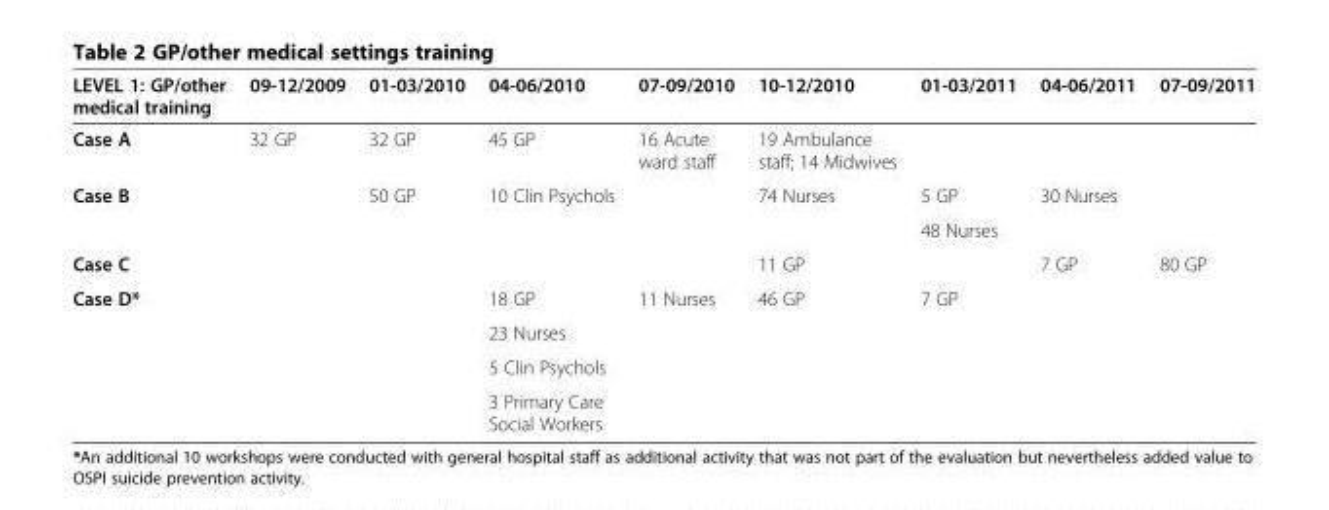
<table><thead><tr><td>LEVEL 1: GP/other medical training</td><td>09-12/2009</td><td>01-03/2010</td><td>04-06/2010</td><td>07-09/2010</td><td>10-12/2010</td><td>01-03/2011</td><td>04-06/2011</td><td>07-09/2011</td></tr></thead><tbody><tr><td>Case A</td><td>32 GP</td><td>32 GP</td><td>45 GP</td><td>16 Acute ward staff</td><td>19 Ambulance staff; 14 Midwives</td><td></td><td></td><td></td></tr><tr><td rowspan="2">Case B</td><td rowspan="2"></td><td rowspan="2">50 GP</td><td rowspan="2">10 Clin Psychols</td><td rowspan="2"></td><td rowspan="2">74 Nurses</td><td>5 GP</td><td rowspan="2">30 Nurses</td><td rowspan="2"></td></tr><tr><td>48 Nurses</td></tr><tr><td>Case C</td><td></td><td></td><td></td><td></td><td>11 GP</td><td></td><td>7 GP</td><td>80 GP</td></tr><tr><td rowspan="4">Case D*</td><td></td><td></td><td>18 GP</td><td>11 Nurses</td><td>46 GP</td><td>7 GP</td><td></td><td></td></tr><tr><td></td><td></td><td>23 Nurses</td><td></td><td></td><td></td><td></td><td></td></tr><tr><td></td><td></td><td>5 Clin Psychols</td><td></td><td></td><td></td><td></td><td></td></tr><tr><td></td><td></td><td>3 Primary Care Social Workers</td><td></td><td></td><td></td><td></td><td></td></tr></tbody></table>